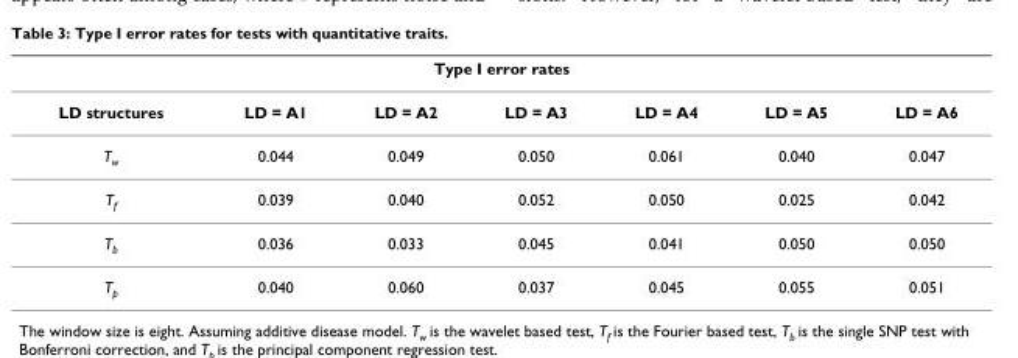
<table><thead><tr><td colspan="7">Type I error rates</td></tr><tr><td>LD structures</td><td>LD = A1</td><td>LD = A2</td><td>LD = A3</td><td>LD = A4</td><td>LD = A5</td><td>LD = A6</td></tr></thead><tbody><tr><td>Tw</td><td>0.044</td><td>0.049</td><td>0.050</td><td>0.061</td><td>0.040</td><td>0.047</td></tr><tr><td>Tf</td><td>0.039</td><td>0.040</td><td>0.052</td><td>0.050</td><td>0.025</td><td>0.042</td></tr><tr><td>Tb</td><td>0.036</td><td>0.033</td><td>0.045</td><td>0.041</td><td>0.050</td><td>0.050</td></tr><tr><td>Tp</td><td>0.040</td><td>0.060</td><td>0.037</td><td>0.045</td><td>0.055</td><td>0.051</td></tr></tbody></table>